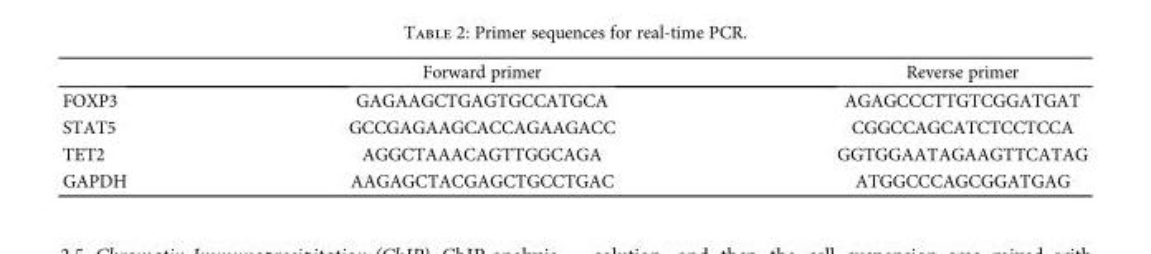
<table><thead><tr><td></td><td>Forward primer</td><td>Reverse primer</td></tr></thead><tbody><tr><td>FOXP3</td><td>GAGAAGCTGAGTGCCATGCA</td><td>AGAGCCCTTGTCGGATGAT</td></tr><tr><td>STAT5</td><td>GCCGAGAAGCACCAGAAGACC</td><td>CGGCCAGCATCTCCTCCA</td></tr><tr><td>TET2</td><td>AGGCTAAACAGTTGGCAGA</td><td>GGTGGAATAGAAGTTCATAG</td></tr><tr><td>GAPDH</td><td>AAGAGCTACGAGCTGCCTGAC</td><td>ATGGCCCAGCGGATGAG</td></tr></tbody></table>